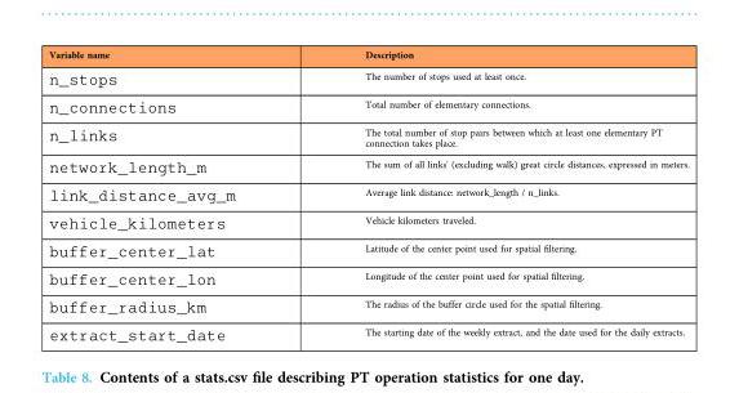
<table><thead><tr><td>Variable name</td><td>Description</td></tr></thead><tbody><tr><td>n_stops</td><td>The number of stops used at least once.</td></tr><tr><td>n_connections</td><td>Total number of elementary connections.</td></tr><tr><td>n_links</td><td>The total number of stop pairs between which at least one elementary PT connection takes place.</td></tr><tr><td>network_length_m</td><td>The sum of all links&#x27; (excluding walk) great circle distances, expressed in meters.</td></tr><tr><td>link_distance_avg_m</td><td>Average link distance: network_length / n_links.</td></tr><tr><td>vehicle_kilometers</td><td>Vehicle kilometers traveled.</td></tr><tr><td>buffer_center_lat</td><td>Latitude of the center point used for spatial filtering.</td></tr><tr><td>buffer_center_lon</td><td>Longitude of the center point used for spatial filtering.</td></tr><tr><td>buffer_radius_km</td><td>The radius of the buffer circle used for the spatial filtering.</td></tr><tr><td>extract_start_date</td><td>The starting date of the weekly extract, and the date used for the daily extracts.</td></tr></tbody></table>